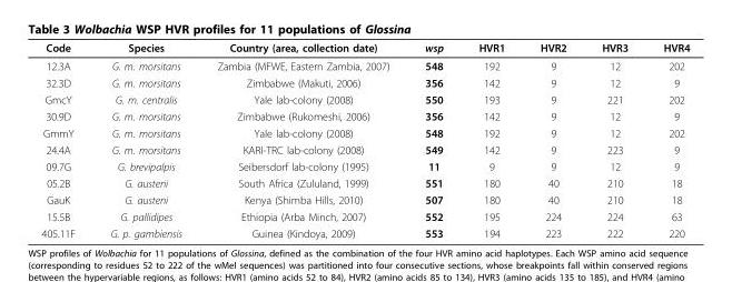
<table><thead><tr><td>Code</td><td>Species</td><td>Country (area, collection date)</td><td>wsp</td><td>HVR1</td><td>HVR2</td><td>HVR3</td><td>HVR4</td></tr></thead><tbody><tr><td>12.3A</td><td>G. m. morsitans</td><td>Zambia (MFWE, Eastern Zambia, 2007)</td><td>548</td><td>192</td><td>9</td><td>12</td><td>202</td></tr><tr><td>32.3D</td><td>G. m. morsitans</td><td>Zimbabwe (Makuti, 2006)</td><td>356</td><td>142</td><td>9</td><td>12</td><td>9</td></tr><tr><td>GmcY</td><td>G. m. centralis</td><td>Yale lab-colony (2008)</td><td>550</td><td>193</td><td>9</td><td>221</td><td>202</td></tr><tr><td>30.9D</td><td>G. m. morsitans</td><td>Zimbabwe (Rukomeshi, 2006)</td><td>356</td><td>142</td><td>9</td><td>12</td><td>9</td></tr><tr><td>GmmY</td><td>G. m. morsitans</td><td>Yale lab-colony (2008)</td><td>548</td><td>192</td><td>9</td><td>12</td><td>202</td></tr><tr><td>24.4A</td><td>G. m. morsitans</td><td>KARI-TRC lab-colony (2008)</td><td>549</td><td>142</td><td>9</td><td>223</td><td>9</td></tr><tr><td>09.7G</td><td>G. brevipalpis</td><td>Seibersdorf lab-colony (1995)</td><td>11</td><td>9</td><td>9</td><td>12</td><td>9</td></tr><tr><td>05.2B</td><td>G. austeni</td><td>South Africa (Zululand, 1999)</td><td>551</td><td>180</td><td>40</td><td>210</td><td>18</td></tr><tr><td>GauK</td><td>G. austeni</td><td>Kenya (Shimba Hills, 2010)</td><td>507</td><td>180</td><td>40</td><td>210</td><td>18</td></tr><tr><td>15.5B</td><td>G. pallidipes</td><td>Ethiopia (Arba Minch, 2007)</td><td>552</td><td>195</td><td>224</td><td>224</td><td>63</td></tr><tr><td>405.11F</td><td>G. p. gambiensis</td><td>Guinea (Kindoya, 2009)</td><td>553</td><td>194</td><td>223</td><td>222</td><td>220</td></tr></tbody></table>